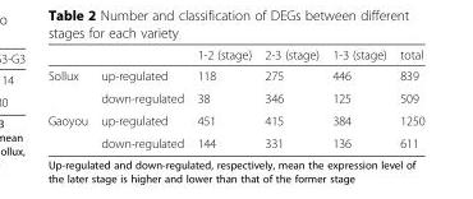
<table><thead><tr><td></td><td></td><td>1-2 (stage)</td><td>2-3 (stage)</td><td>1-3 (stage)</td><td>total</td></tr></thead><tbody><tr><td rowspan="2">Sollux</td><td>up-regulated</td><td>118</td><td>275</td><td>446</td><td>839</td></tr><tr><td>down-regulated</td><td>38</td><td>346</td><td>125</td><td>509</td></tr><tr><td rowspan="2">Gaoyou</td><td>up-regulated</td><td>451</td><td>415</td><td>384</td><td>1250</td></tr><tr><td>down-regulated</td><td>144</td><td>331</td><td>136</td><td>611</td></tr></tbody></table>